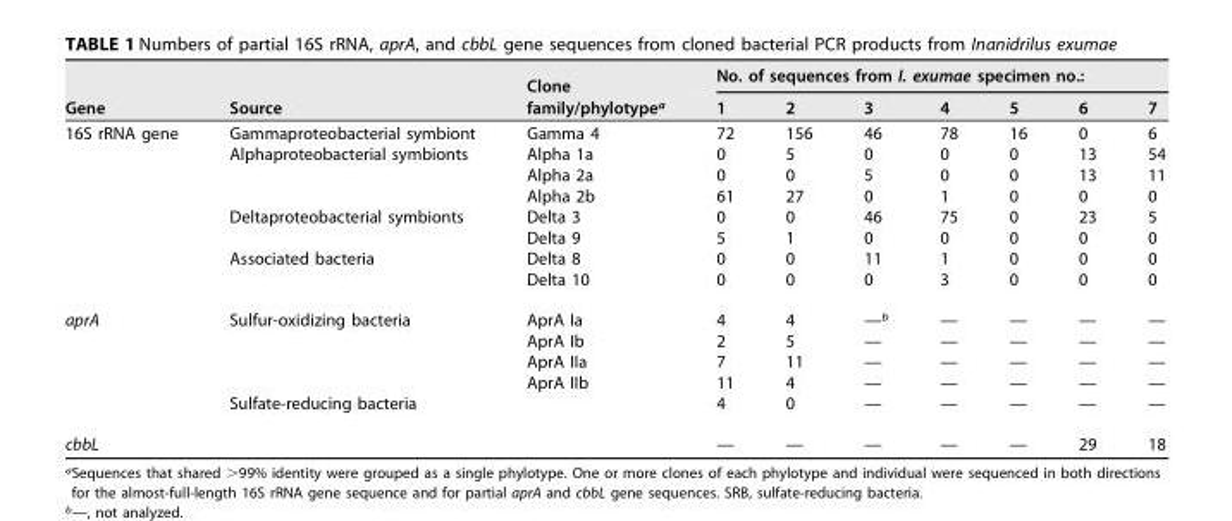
<table><thead><tr><td rowspan="2">Gene</td><td rowspan="2">Source</td><td rowspan="2">Clone family/phylotype<sup>a</sup></td><td colspan="7">No. of sequences from I. exumae specimen no.:</td></tr><tr><td>1</td><td>2</td><td>3</td><td>4</td><td>5</td><td>6</td><td>7</td></tr></thead><tbody><tr><td rowspan="8">16S rRNA gene</td><td>Gammaproteobacterial symbiont</td><td>Gamma 4</td><td>72</td><td>156</td><td>46</td><td>78</td><td>16</td><td>0</td><td>6</td></tr><tr><td>Alphaproteobacterial symbionts</td><td>Alpha 1a</td><td>0</td><td>5</td><td>0</td><td>0</td><td>0</td><td>13</td><td>54</td></tr><tr><td></td><td>Alpha 2a</td><td>0</td><td>0</td><td>5</td><td>0</td><td>0</td><td>13</td><td>11</td></tr><tr><td></td><td>Alpha 2b</td><td>61</td><td>27</td><td>0</td><td>1</td><td>0</td><td>0</td><td>0</td></tr><tr><td>Deltaproteobacterial symbionts</td><td>Delta 3</td><td>0</td><td>0</td><td>46</td><td>75</td><td>0</td><td>23</td><td>5</td></tr><tr><td></td><td>Delta 9</td><td>5</td><td>1</td><td>0</td><td>0</td><td>0</td><td>0</td><td>0</td></tr><tr><td>Associated bacteria</td><td>Delta 8</td><td>0</td><td>0</td><td>11</td><td>1</td><td>0</td><td>0</td><td>0</td></tr><tr><td></td><td>Delta 10</td><td>0</td><td>0</td><td>0</td><td>3</td><td>0</td><td>0</td><td>0</td></tr><tr><td rowspan="5">aprA</td><td>Sulfur-oxidizing bacteria</td><td>AprA Ia</td><td>4</td><td>4</td><td>—<sup>b</sup></td><td>—</td><td>—</td><td>—</td><td>—</td></tr><tr><td></td><td>AprA Ib</td><td>2</td><td>5</td><td>—</td><td>—</td><td>—</td><td>—</td><td>—</td></tr><tr><td></td><td>AprA IIa</td><td>7</td><td>11</td><td>—</td><td>—</td><td>—</td><td>—</td><td>—</td></tr><tr><td></td><td>AprA IIb</td><td>11</td><td>4</td><td>—</td><td>—</td><td>—</td><td>—</td><td>—</td></tr><tr><td>Sulfate-reducing bacteria</td><td></td><td>4</td><td>0</td><td>—</td><td>—</td><td>—</td><td>—</td><td>—</td></tr><tr><td>cbbL</td><td></td><td></td><td>—</td><td>—</td><td>—</td><td>—</td><td>—</td><td>29</td><td>18</td></tr></tbody></table>